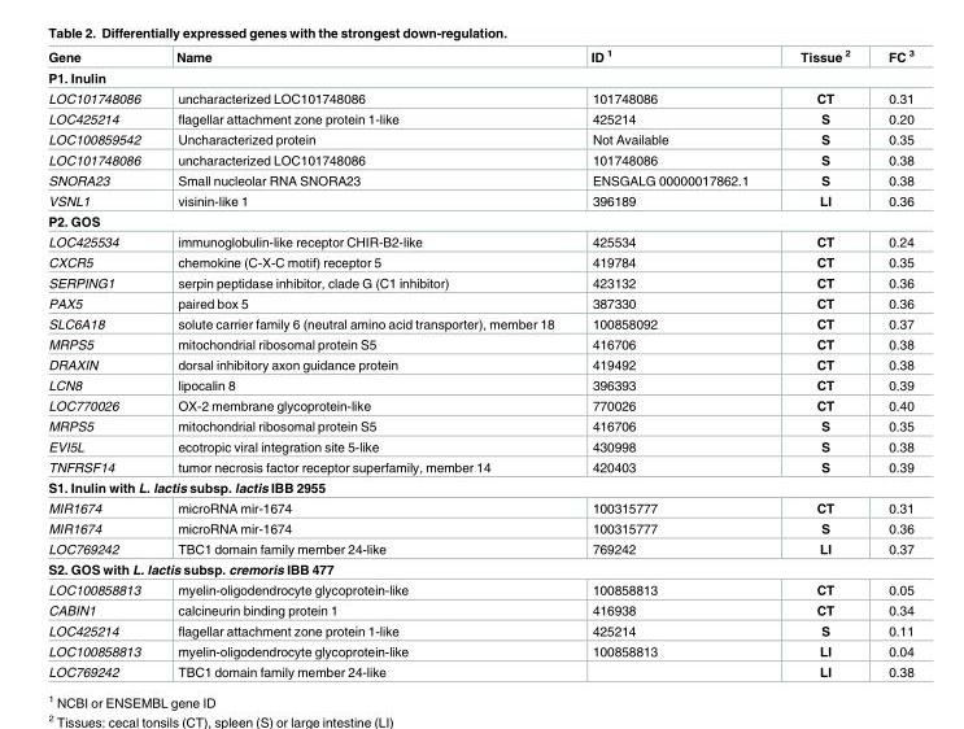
<table><thead><tr><td>Gene</td><td>Name</td><td>ID <sup>1</sup></td><td>Tissue <sup>2</sup></td><td>FC <sup>3</sup></td></tr></thead><tbody><tr><td colspan="5">P1. Inulin</td></tr><tr><td>LOC101748086</td><td>uncharacterized LOC101748086</td><td>101748086</td><td>CT</td><td>0.31</td></tr><tr><td>LOC425214</td><td>flagellar attachment zone protein 1-like</td><td>425214</td><td>S</td><td>0.20</td></tr><tr><td>LOC100859542</td><td>Uncharacterized protein</td><td>Not Available</td><td>S</td><td>0.35</td></tr><tr><td>LOC101748086</td><td>uncharacterized LOC101748086</td><td>101748086</td><td>S</td><td>0.38</td></tr><tr><td>SNORA23</td><td>Small nucleolar RNA SNORA23</td><td>ENSGALG 00000017862.1</td><td>S</td><td>0.38</td></tr><tr><td>VSNL1</td><td>visinin-like 1</td><td>396189</td><td>LI</td><td>0.36</td></tr><tr><td colspan="5">P2. GOS</td></tr><tr><td>LOC425534</td><td>immunoglobulin-like receptor CHIR-B2-like</td><td>425534</td><td>CT</td><td>0.24</td></tr><tr><td>CXCR5</td><td>chemokine (C-X-C motif) receptor 5</td><td>419784</td><td>CT</td><td>0.35</td></tr><tr><td>SERPING1</td><td>serpin peptidase inhibitor, clade G (C1 inhibitor)</td><td>423132</td><td>CT</td><td>0.36</td></tr><tr><td>PAX5</td><td>paired box 5</td><td>387330</td><td>CT</td><td>0.36</td></tr><tr><td>SLC6A18</td><td>solute carrier family 6 (neutral amino acid transporter), member 18</td><td>100858092</td><td>CT</td><td>0.37</td></tr><tr><td>MRPS5</td><td>mitochondrial ribosomal protein S5</td><td>416706</td><td>CT</td><td>0.38</td></tr><tr><td>DRAXIN</td><td>dorsal inhibitory axon guidance protein</td><td>419492</td><td>CT</td><td>0.38</td></tr><tr><td>LCN8</td><td>lipocalin 8</td><td>396393</td><td>CT</td><td>0.39</td></tr><tr><td>LOC770026</td><td>OX-2 membrane glycoprotein-like</td><td>770026</td><td>CT</td><td>0.40</td></tr><tr><td>MRPS5</td><td>mitochondrial ribosomal protein S5</td><td>416706</td><td>S</td><td>0.35</td></tr><tr><td>EVI5L</td><td>ecotropic viral integration site 5-like</td><td>430998</td><td>S</td><td>0.38</td></tr><tr><td>TNFRSF14</td><td>tumor necrosis factor receptor superfamily, member 14</td><td>420403</td><td>S</td><td>0.39</td></tr><tr><td colspan="5">S1. Inulin with L. lactis subsp. lactis IBB 2955</td></tr><tr><td>MIR1674</td><td>microRNA mir-1674</td><td>100315777</td><td>CT</td><td>0.31</td></tr><tr><td>MIR1674</td><td>microRNA mir-1674</td><td>100315777</td><td>S</td><td>0.36</td></tr><tr><td>LOC769242</td><td>TBC1 domain family member 24-like</td><td>769242</td><td>LI</td><td>0.37</td></tr><tr><td colspan="5">S2. GOS with L. lactis subsp. cremoris IBB 477</td></tr><tr><td>LOC100858813</td><td>myelin-oligodendrocyte glycoprotein-like</td><td>100858813</td><td>CT</td><td>0.05</td></tr><tr><td>CABIN1</td><td>calcineurin binding protein 1</td><td>416938</td><td>CT</td><td>0.34</td></tr><tr><td>LOC425214</td><td>flagellar attachment zone protein 1-like</td><td>425214</td><td>S</td><td>0.11</td></tr><tr><td>LOC100858813</td><td>myelin-oligodendrocyte glycoprotein-like</td><td>100858813</td><td>LI</td><td>0.04</td></tr><tr><td>LOC769242</td><td>TBC1 domain family member 24-like</td><td></td><td>LI</td><td>0.38</td></tr></tbody></table>